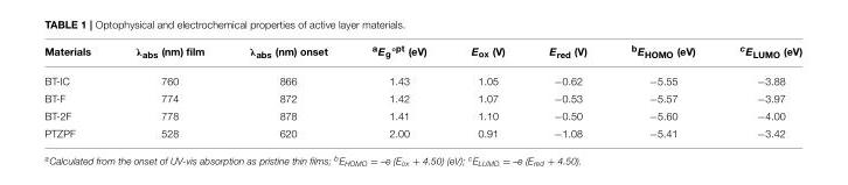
<table><thead><tr><td>Materials</td><td>λ<sub>abs</sub> (nm) film</td><td>λ<sub>abs</sub> (nm) onset</td><td>aEg◦pt (eV)</td><td>E<sub>ox</sub> (V)</td><td>E<sub>red</sub> (V)</td><td><sup>b</sup>E<sub>HOMO</sub> (eV)</td><td><sup>c</sup>E<sub>LUMO</sub> (eV)</td></tr></thead><tbody><tr><td>BT-IC</td><td>760</td><td>866</td><td>1.43</td><td>1.05</td><td>−0.62</td><td>−5.55</td><td>−3.88</td></tr><tr><td>BT-F</td><td>774</td><td>872</td><td>1.42</td><td>1.07</td><td>−0.53</td><td>−5.57</td><td>−3.97</td></tr><tr><td>BT-2F</td><td>778</td><td>878</td><td>1.41</td><td>1.10</td><td>−0.50</td><td>−5.60</td><td>−4.00</td></tr><tr><td>PTZPF</td><td>528</td><td>620</td><td>2.00</td><td>0.91</td><td>−1.08</td><td>−5.41</td><td>−3.42</td></tr></tbody></table>